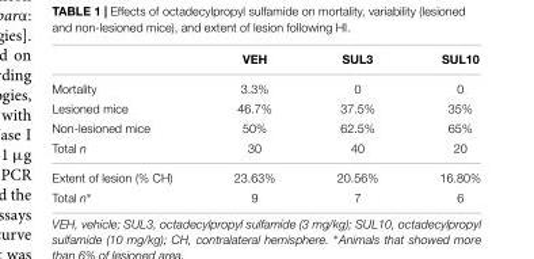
<table><thead><tr><td></td><td>VEH</td><td>SUL3</td><td>SUL10</td></tr></thead><tbody><tr><td>Mortality</td><td>3.3%</td><td>0</td><td>0</td></tr><tr><td>Lesioned mice</td><td>46.7%</td><td>37.5%</td><td>35%</td></tr><tr><td>Non-lesioned mice</td><td>50%</td><td>62.5%</td><td>65%</td></tr><tr><td>Total n</td><td>30</td><td>40</td><td>20</td></tr><tr><td>Extent of lesion (% CH)</td><td>23.63%</td><td>20.56%</td><td>16.80%</td></tr><tr><td>Total n∗</td><td>9</td><td>7</td><td>6</td></tr></tbody></table>